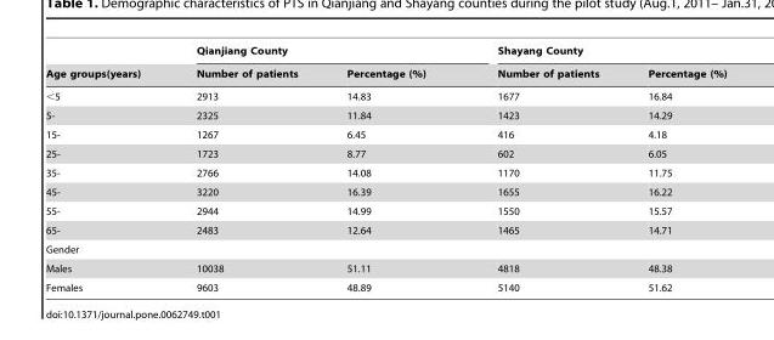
<table><thead><tr><td rowspan="2">Age groups(years)</td><td colspan="2">Qianjiang County</td><td colspan="2">Shayang County</td></tr><tr><td>Number of patients</td><td>Percentage (%)</td><td>Number of patients</td><td>Percentage (%)</td></tr></thead><tbody><tr><td>&lt;5</td><td>2913</td><td>14.83</td><td>1677</td><td>16.84</td></tr><tr><td>5-</td><td>2325</td><td>11.84</td><td>1423</td><td>14.29</td></tr><tr><td>15-</td><td>1267</td><td>6.45</td><td>416</td><td>4.18</td></tr><tr><td>25-</td><td>1723</td><td>8.77</td><td>602</td><td>6.05</td></tr><tr><td>35-</td><td>2766</td><td>14.08</td><td>1170</td><td>11.75</td></tr><tr><td>45-</td><td>3220</td><td>16.39</td><td>1655</td><td>16.22</td></tr><tr><td>55-</td><td>2944</td><td>14.99</td><td>1550</td><td>15.57</td></tr><tr><td>65-</td><td>2483</td><td>12.64</td><td>1465</td><td>14.71</td></tr><tr><td colspan="5">Gender</td></tr><tr><td>Males</td><td>10038</td><td>51.11</td><td>4818</td><td>48.38</td></tr><tr><td>Females</td><td>9603</td><td>48.89</td><td>5140</td><td>51.62</td></tr></tbody></table>